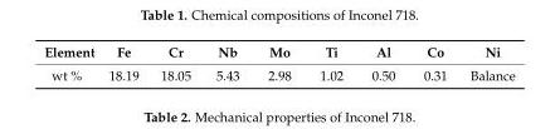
<table><thead><tr><td>Element</td><td>Fe</td><td>Cr</td><td>Nb</td><td>Mo</td><td>Ti</td><td>Al</td><td>Co</td><td>Ni</td></tr></thead><tbody><tr><td>wt %</td><td>18.19</td><td>18.05</td><td>5.43</td><td>2.98</td><td>1.02</td><td>0.50</td><td>0.31</td><td>Balance</td></tr></tbody></table>